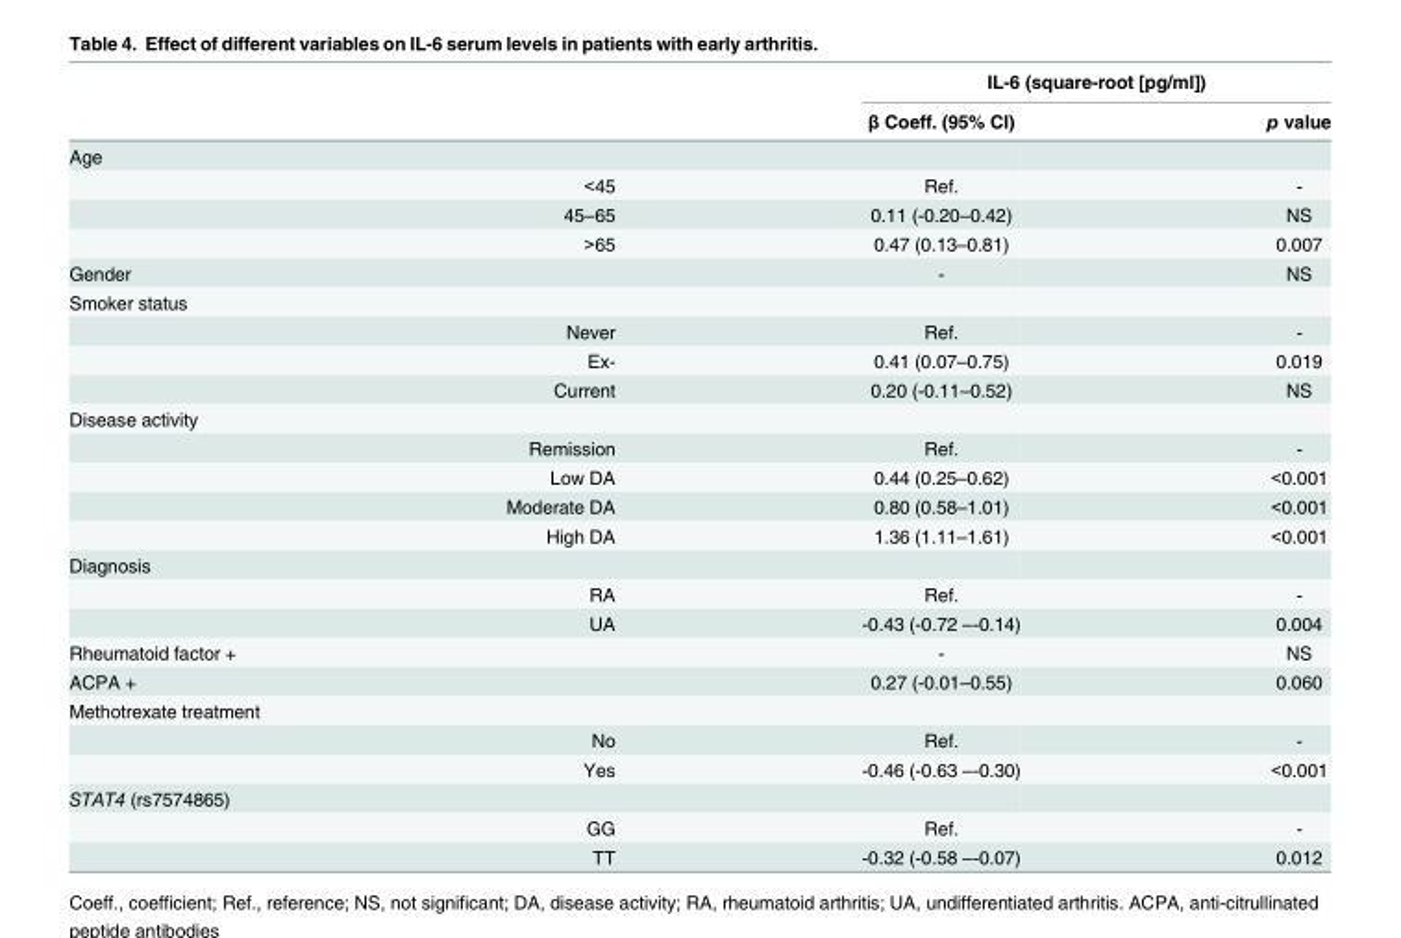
<table><thead><tr><td rowspan="2"></td><td rowspan="2"></td><td colspan="2">IL-6 (square-root [pg/ml])</td></tr><tr><td>β Coeff. (95% CI)</td><td>p value</td></tr></thead><tbody><tr><td colspan="4">Age</td></tr><tr><td></td><td>&lt;45</td><td>Ref.</td><td>-</td></tr><tr><td></td><td>45–65</td><td>0.11 (-0.20–0.42)</td><td>NS</td></tr><tr><td></td><td>&gt;65</td><td>0.47 (0.13–0.81)</td><td>0.007</td></tr><tr><td>Gender</td><td></td><td>-</td><td>NS</td></tr><tr><td colspan="4">Smoker status</td></tr><tr><td></td><td>Never</td><td>Ref.</td><td>-</td></tr><tr><td></td><td>Ex-</td><td>0.41 (0.07–0.75)</td><td>0.019</td></tr><tr><td></td><td>Current</td><td>0.20 (-0.11–0.52)</td><td>NS</td></tr><tr><td colspan="4">Disease activity</td></tr><tr><td></td><td>Remission</td><td>Ref.</td><td>-</td></tr><tr><td></td><td>Low DA</td><td>0.44 (0.25–0.62)</td><td>&lt;0.001</td></tr><tr><td></td><td>Moderate DA</td><td>0.80 (0.58–1.01)</td><td>&lt;0.001</td></tr><tr><td></td><td>High DA</td><td>1.36 (1.11–1.61)</td><td>&lt;0.001</td></tr><tr><td colspan="4">Diagnosis</td></tr><tr><td></td><td>RA</td><td>Ref.</td><td>-</td></tr><tr><td></td><td>UA</td><td>-0.43 (-0.72 –-0.14)</td><td>0.004</td></tr><tr><td>Rheumatoid factor +</td><td></td><td>-</td><td>NS</td></tr><tr><td>ACPA +</td><td></td><td>0.27 (-0.01–0.55)</td><td>0.060</td></tr><tr><td colspan="4">Methotrexate treatment</td></tr><tr><td></td><td>No</td><td>Ref.</td><td>-</td></tr><tr><td></td><td>Yes</td><td>-0.46 (-0.63 –-0.30)</td><td>&lt;0.001</td></tr><tr><td colspan="4">STAT4 (rs7574865)</td></tr><tr><td></td><td>GG</td><td>Ref.</td><td>-</td></tr><tr><td></td><td>TT</td><td>-0.32 (-0.58 –-0.07)</td><td>0.012</td></tr></tbody></table>